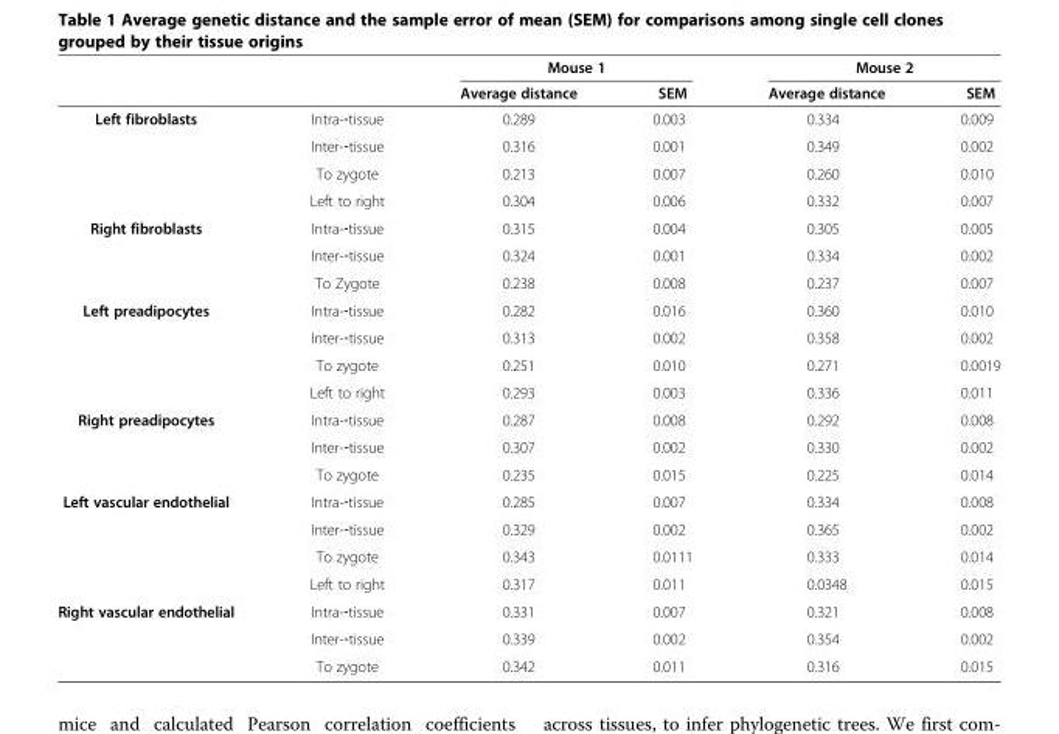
<table><thead><tr><td rowspan="2"></td><td rowspan="2"></td><td colspan="2">Mouse 1</td><td colspan="2">Mouse 2</td></tr><tr><td>Average distance</td><td>SEM</td><td>Average distance</td><td>SEM</td></tr></thead><tbody><tr><td rowspan="4">Left fibroblasts</td><td>Intra-‐tissue</td><td>0.289</td><td>0.003</td><td>0.334</td><td>0.009</td></tr><tr><td>Inter-‐tissue</td><td>0.316</td><td>0.001</td><td>0.349</td><td>0.002</td></tr><tr><td>To zygote</td><td>0.213</td><td>0.007</td><td>0.260</td><td>0.010</td></tr><tr><td>Left to right</td><td>0.304</td><td>0.006</td><td>0.332</td><td>0.007</td></tr><tr><td rowspan="3">Right fibroblasts</td><td>Intra-‐tissue</td><td>0.315</td><td>0.004</td><td>0.305</td><td>0.005</td></tr><tr><td>Inter-‐tissue</td><td>0.324</td><td>0.001</td><td>0.334</td><td>0.002</td></tr><tr><td>To Zygote</td><td>0.238</td><td>0.008</td><td>0.237</td><td>0.007</td></tr><tr><td rowspan="4">Left preadipocytes</td><td>Intra-‐tissue</td><td>0.282</td><td>0.016</td><td>0.360</td><td>0.010</td></tr><tr><td>Inter-‐tissue</td><td>0.313</td><td>0.002</td><td>0.358</td><td>0.002</td></tr><tr><td>To zygote</td><td>0.251</td><td>0.010</td><td>0.271</td><td>0.0019</td></tr><tr><td>Left to right</td><td>0.293</td><td>0.003</td><td>0.336</td><td>0.011</td></tr><tr><td rowspan="3">Right preadipocytes</td><td>Intra-‐tissue</td><td>0.287</td><td>0.008</td><td>0.292</td><td>0.008</td></tr><tr><td>Inter-‐tissue</td><td>0.307</td><td>0.002</td><td>0.330</td><td>0.002</td></tr><tr><td>To zygote</td><td>0.235</td><td>0.015</td><td>0.225</td><td>0.014</td></tr><tr><td rowspan="4">Left vascular endothelial</td><td>Intra-‐tissue</td><td>0.285</td><td>0.007</td><td>0.334</td><td>0.008</td></tr><tr><td>Inter-‐tissue</td><td>0.329</td><td>0.002</td><td>0.365</td><td>0.002</td></tr><tr><td>To zygote</td><td>0.343</td><td>0.0111</td><td>0.333</td><td>0.014</td></tr><tr><td>Left to right</td><td>0.317</td><td>0.011</td><td>0.0348</td><td>0.015</td></tr><tr><td rowspan="3">Right vascular endothelial</td><td>Intra-‐tissue</td><td>0.331</td><td>0.007</td><td>0.321</td><td>0.008</td></tr><tr><td>Inter-‐tissue</td><td>0.339</td><td>0.002</td><td>0.354</td><td>0.002</td></tr><tr><td>To zygote</td><td>0.342</td><td>0.011</td><td>0.316</td><td>0.015</td></tr></tbody></table>